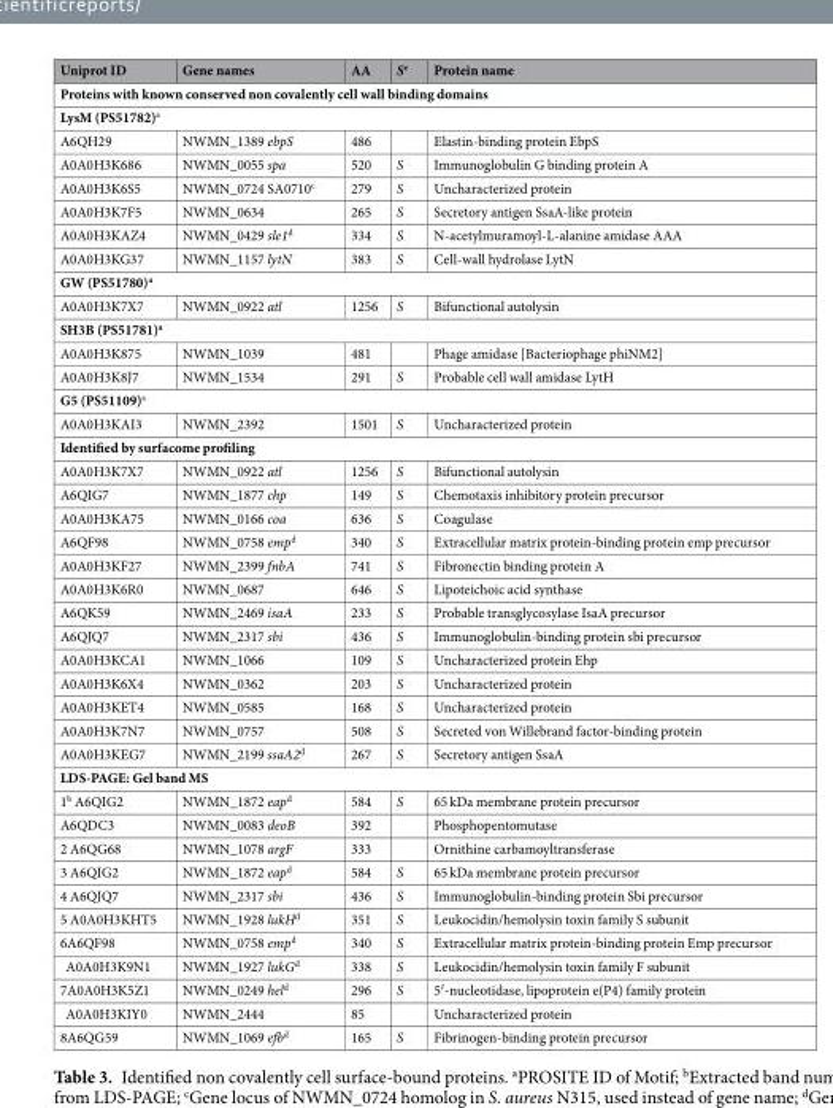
<table><thead><tr><td>Uniprot ID</td><td>Gene names</td><td>AA</td><td>S<sup>e</sup></td><td>Protein name</td></tr></thead><tbody><tr><td colspan="5">Proteins with known conserved non covalently cell wall binding domains</td></tr><tr><td colspan="5">LysM (PS51782)<sup>a</sup></td></tr><tr><td>A6QH29</td><td>NWMN_1389 ebpS</td><td>486</td><td></td><td>Elastin-binding protein EbpS</td></tr><tr><td>A0A0H3K686</td><td>NWMN_0055 spa</td><td>520</td><td>S</td><td>Immunoglobulin G binding protein A</td></tr><tr><td>A0A0H3K6S5</td><td>NWMN_0724 SA0710<sup>c</sup></td><td>279</td><td>S</td><td>Uncharacterized protein</td></tr><tr><td>A0A0H3K7F5</td><td>NWMN_0634</td><td>265</td><td>S</td><td>Secretory antigen SsaA-like protein</td></tr><tr><td>A0A0H3KAZ4</td><td>NWMN_0429 sle1<sup>d</sup></td><td>334</td><td>S</td><td>N-acetylmuramoyl-L-alanine amidase AAA</td></tr><tr><td>A0A0H3KG37</td><td>NWMN_1157 lytN</td><td>383</td><td>S</td><td>Cell-wall hydrolase LytN</td></tr><tr><td colspan="5">GW (PS51780)<sup>a</sup></td></tr><tr><td>A0A0H3K7X7</td><td>NWMN_0922 atl</td><td>1256</td><td>S</td><td>Bifunctional autolysin</td></tr><tr><td colspan="5">SH3B (PS51781)<sup>a</sup></td></tr><tr><td>A0A0H3K875</td><td>NWMN_1039</td><td>481</td><td></td><td>Phage amidase [Bacteriophage phiNM2]</td></tr><tr><td>A0A0H3K8J7</td><td>NWMN_1534</td><td>291</td><td>S</td><td>Probable cell wall amidase LytH</td></tr><tr><td colspan="5">G5 (PS51109)<sup>a</sup></td></tr><tr><td>A0A0H3KAI3</td><td>NWMN_2392</td><td>1501</td><td>S</td><td>Uncharacterized protein</td></tr><tr><td colspan="5">Identified by surfacome profiling</td></tr><tr><td>A0A0H3K7X7</td><td>NWMN_0922 atl</td><td>1256</td><td>S</td><td>Bifunctional autolysin</td></tr><tr><td>A6QIG7</td><td>NWMN_1877 chp</td><td>149</td><td>S</td><td>Chemotaxis inhibitory protein precursor</td></tr><tr><td>A0A0H3KA75</td><td>NWMN_0166 coa</td><td>636</td><td>S</td><td>Coagulase</td></tr><tr><td>A6QF98</td><td>NWMN_0758 emp<sup>d</sup></td><td>340</td><td>S</td><td>Extracellular matrix protein-binding protein emp precursor</td></tr><tr><td>A0A0H3KF27</td><td>NWMN_2399 fnbA</td><td>741</td><td>S</td><td>Fibronectin binding protein A</td></tr><tr><td>A0A0H3K6R0</td><td>NWMN_0687</td><td>646</td><td>S</td><td>Lipoteichoic acid synthase</td></tr><tr><td>A6QK59</td><td>NWMN_2469 isaA</td><td>233</td><td>S</td><td>Probable transglycosylase IsaA precursor</td></tr><tr><td>A6QJQ7</td><td>NWMN_2317 sbi</td><td>436</td><td>S</td><td>Immunoglobulin-binding protein sbi precursor</td></tr><tr><td>A0A0H3KCA1</td><td>NWMN_1066</td><td>109</td><td>S</td><td>Uncharacterized protein Ehp</td></tr><tr><td>A0A0H3K6X4</td><td>NWMN_0362</td><td>203</td><td>S</td><td>Uncharacterized protein</td></tr><tr><td>A0A0H3KET4</td><td>NWMN_0585</td><td>168</td><td>S</td><td>Uncharacterized protein</td></tr><tr><td>A0A0H3K7N7</td><td>NWMN_0757</td><td>508</td><td>S</td><td>Secreted von Willebrand factor-binding protein</td></tr><tr><td>A0A0H3KEG7</td><td>NWMN_2199 ssaA2<sup>d</sup></td><td>267</td><td>S</td><td>Secretory antigen SsaA</td></tr><tr><td colspan="5">LDS-PAGE: Gel band MS</td></tr><tr><td>1<sup>b</sup> A6QIG2</td><td>NWMN_1872 eap<sup>d</sup></td><td>584</td><td>S</td><td>65 kDa membrane protein precursor</td></tr><tr><td>A6QDC3</td><td>NWMN_0083 deoB</td><td>392</td><td></td><td>Phosphopentomutase</td></tr><tr><td>2 A6QG68</td><td>NWMN_1078 argF</td><td>333</td><td></td><td>Ornithine carbamoyltransferase</td></tr><tr><td>3 A6QIG2</td><td>NWMN_1872 eap<sup>d</sup></td><td>584</td><td>S</td><td>65 kDa membrane protein precursor</td></tr><tr><td>4 A6QJQ7</td><td>NWMN_2317 sbi</td><td>436</td><td>S</td><td>Immunoglobulin-binding protein Sbi precursor</td></tr><tr><td>5 A0A0H3KHT5</td><td>NWMN_1928 lukH<sup>d</sup></td><td>351</td><td>S</td><td>Leukocidin/hemolysin toxin family S subunit</td></tr><tr><td>6A6QF98</td><td>NWMN_0758 emp<sup>d</sup></td><td>340</td><td>S</td><td>Extracellular matrix protein-binding protein Emp precursor</td></tr><tr><td>A0A0H3K9N1</td><td>NWMN_1927 lukG<sup>d</sup></td><td>338</td><td>S</td><td>Leukocidin/hemolysin toxin family F subunit</td></tr><tr><td>7A0A0H3K5Z1</td><td>NWMN_0249 hel<sup>d</sup></td><td>296</td><td>S</td><td>5′-nucleotidase, lipoprotein e(P4) family protein</td></tr><tr><td>A0A0H3KIY0</td><td>NWMN_2444</td><td>85</td><td></td><td>Uncharacterized protein</td></tr><tr><td>8A6QG59</td><td>NWMN_1069 efb<sup>d</sup></td><td>165</td><td>S</td><td>Fibrinogen-binding protein precursor</td></tr></tbody></table>